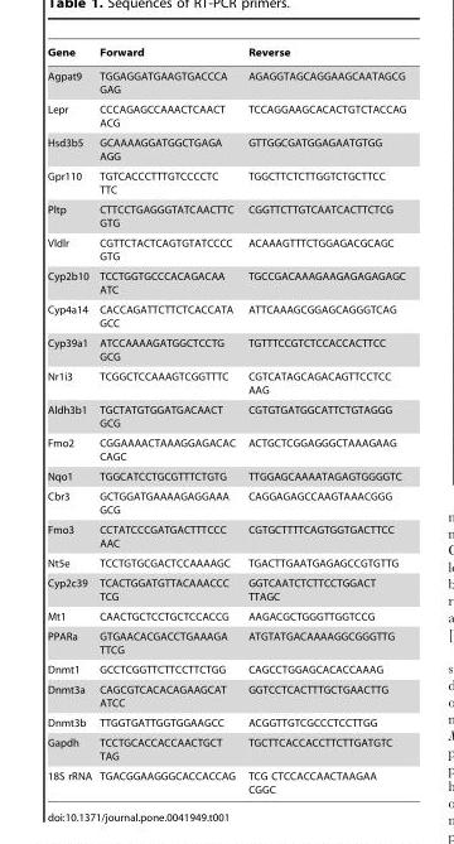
<table><thead><tr><td>Gene</td><td>Forward</td><td>Reverse</td></tr></thead><tbody><tr><td>Agpat9</td><td>TGGAGGATGAAGTGACCCA GAG</td><td>AGAGGTAGCAGGAAGCAATAGCG</td></tr><tr><td>Lepr</td><td>CCCAGAGCCAAACTCAACT ACG</td><td>TCCAGGAAGCACACTGTCTACCAG</td></tr><tr><td>Hsd3b5</td><td>GCAAAAGGATGGCTGAGA AGG</td><td>GTTGGCGATGGAGAATGTGG</td></tr><tr><td>Gpr110</td><td>TGTCACCCTTTGTCCCCTC TTC</td><td>TGGCTTCTCTTGGTCTGCTTCC</td></tr><tr><td>Pltp</td><td>CTTCCTGAGGGTATCAACTTC GTG</td><td>CGGTTCTTGTCAATCACTTCTCG</td></tr><tr><td>Vldlr</td><td>CGTTCTACTCAGTGTATCCCC GTG</td><td>ACAAAGTTTCTGGAGACGCAGC</td></tr><tr><td>Cyp2b10</td><td>TCCTGGTGCCCACAGACAA ATC</td><td>TGCCGACAAAGAAGAGAGAGAGC</td></tr><tr><td>Cyp4a14</td><td>CACCAGATTCTTCTCACCATA GCC</td><td>ATTCAAAGCGGAGCAGGGTCAG</td></tr><tr><td>Cyp39a1</td><td>ATCCAAAAGATGGCTCCTG GCG</td><td>TGTTTCCGTCTCCACCACTTCC</td></tr><tr><td>Nr1i3</td><td>TCGGCTCCAAAGTCGGTTTC</td><td>CGTCATAGCAGACAGTTCCTCC AAG</td></tr><tr><td>Aldh3b1</td><td>TGCTATGTGGATGACAACT GCG</td><td>CGTGTGATGGCATTCTGTAGGG</td></tr><tr><td>Fmo2</td><td>CGGAAAACTAAAGGAGACAC CAGC</td><td>ACTGCTCGGAGGGCTAAAGAAG</td></tr><tr><td>Nqo1</td><td>TGGCATCCTGCGTTTCTGTG</td><td>TTGGAGCAAAATAGAGTGGGGTC</td></tr><tr><td>Cbr3</td><td>GCTGGATGAAAAGAGGAAA GCG</td><td>CAGGAGAGCCAAGTAAACGGG</td></tr><tr><td>Fmo3</td><td>CCTATCCCGATGACTTTCCC AAC</td><td>CGTGCTTTTCAGTGGTGACTTCC</td></tr><tr><td>Nt5e</td><td>TCCTGTGCGACTCCAAAAGC</td><td>TGACTTGAATGAGAGCCGTGTTG</td></tr><tr><td>Cyp2c39</td><td>TCACTGGATGTTACAAACCC TCG</td><td>GGTCAATCTCTTCCTGGACT TTAGC</td></tr><tr><td>Mt1</td><td>CAACTGCTCCTGCTCCACCG</td><td>AAGACGCTGGGTTGGTCCG</td></tr><tr><td>PPARa</td><td>GTGAACACGACCTGAAAGA TTCG</td><td>ATGTATGACAAAAGGCGGGTTG</td></tr><tr><td>Dnmt1</td><td>GCCTCGGTTCTTCCTTCTGG</td><td>CAGCCTGGAGCACACCAAAG</td></tr><tr><td>Dnmt3a</td><td>CAGCGTCACACAGAAGCAT ATCC</td><td>GGTCCTCACTTTGCTGAACTTG</td></tr><tr><td>Dnmt3b</td><td>TTGGTGATTGGTGGAAGCC</td><td>ACGGTTGTCGCCCTCCTTGG</td></tr><tr><td>Gapdh</td><td>TCCTGCACCACCAACTGCT TAG</td><td>TGCTTCACCACCTTCTTGATGTC</td></tr><tr><td>18S rRNA</td><td>TGACGGAAGGGCACCACCAG</td><td>TCG CTCCACCAACTAAGAA CGGC</td></tr></tbody></table>